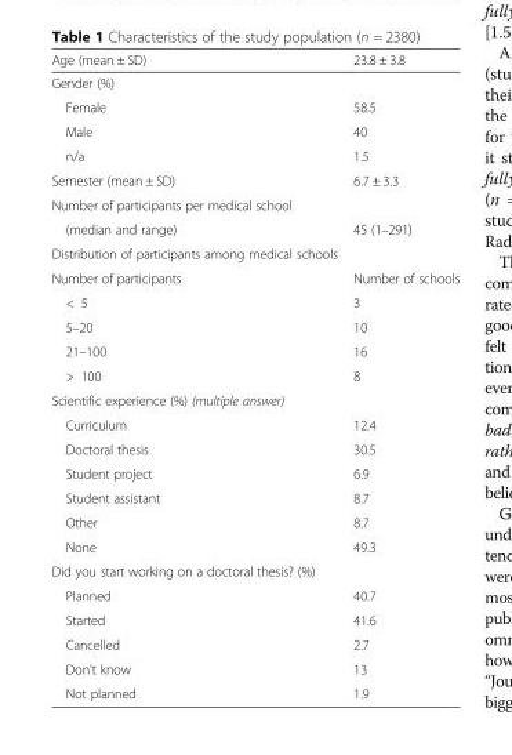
<table><thead><tr><td>Age (mean ± SD)</td><td>23.8 ± 3.8</td></tr></thead><tbody><tr><td colspan="2">Gender (%)</td></tr><tr><td>Female</td><td>58.5</td></tr><tr><td>Male</td><td>40</td></tr><tr><td>n/a</td><td>1.5</td></tr><tr><td>Semester (mean ± SD)</td><td>6.7 ± 3.3</td></tr><tr><td colspan="2">Number of participants per medical school</td></tr><tr><td>(median and range)</td><td>45 (1–291)</td></tr><tr><td colspan="2">Distribution of participants among medical schools</td></tr><tr><td>Number of participants</td><td>Number of schools</td></tr><tr><td>&lt; 5</td><td>3</td></tr><tr><td>5–20</td><td>10</td></tr><tr><td>21–100</td><td>16</td></tr><tr><td>&gt; 100</td><td>8</td></tr><tr><td colspan="2">Scientific experience (%) (multiple answer)</td></tr><tr><td>Curriculum</td><td>12.4</td></tr><tr><td>Doctoral thesis</td><td>30.5</td></tr><tr><td>Student project</td><td>6.9</td></tr><tr><td>Student assistant</td><td>8.7</td></tr><tr><td>Other</td><td>8.7</td></tr><tr><td>None</td><td>49.3</td></tr><tr><td colspan="2">Did you start working on a doctoral thesis? (%)</td></tr><tr><td>Planned</td><td>40.7</td></tr><tr><td>Started</td><td>41.6</td></tr><tr><td>Cancelled</td><td>2.7</td></tr><tr><td>Don’t know</td><td>13</td></tr><tr><td>Not planned</td><td>1.9</td></tr></tbody></table>